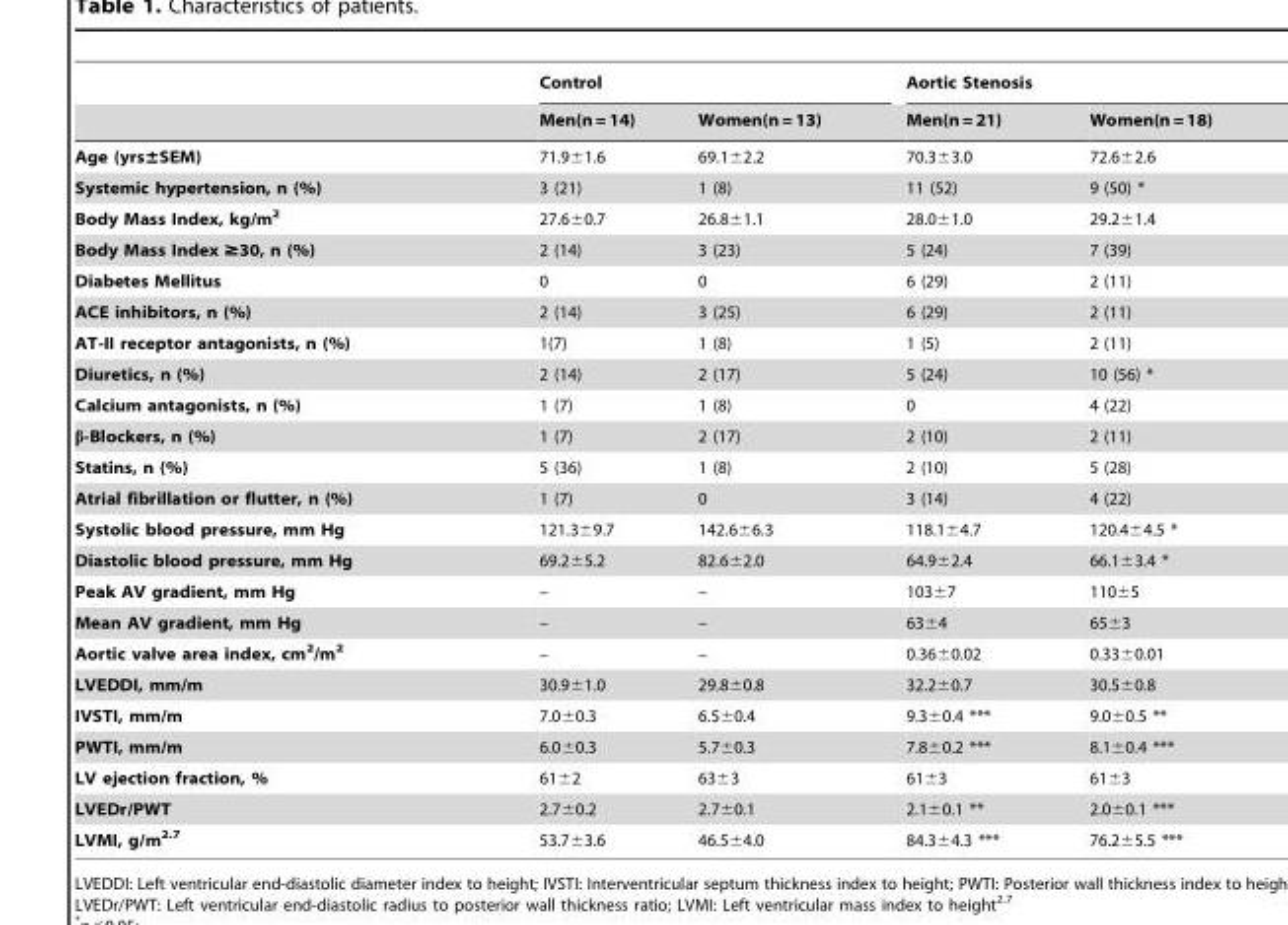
<table><thead><tr><td rowspan="2"></td><td colspan="2">Control</td><td colspan="2">Aortic Stenosis</td></tr><tr><td>Men(n = 14)</td><td>Women(n = 13)</td><td>Men(n = 21)</td><td>Women(n = 18)</td></tr></thead><tbody><tr><td>Age (yrs±SEM)</td><td>71.9±1.6</td><td>69.1±2.2</td><td>70.3±3.0</td><td>72.6±2.6</td></tr><tr><td>Systemic hypertension, n (%)</td><td>3 (21)</td><td>1 (8)</td><td>11 (52)</td><td>9 (50) *</td></tr><tr><td>Body Mass Index, kg/m<sup>2</sup></td><td>27.6±0.7</td><td>26.8±1.1</td><td>28.0±1.0</td><td>29.2±1.4</td></tr><tr><td>Body Mass Index ≥30, n (%)</td><td>2 (14)</td><td>3 (23)</td><td>5 (24)</td><td>7 (39)</td></tr><tr><td>Diabetes Mellitus</td><td>0</td><td>0</td><td>6 (29)</td><td>2 (11)</td></tr><tr><td>ACE inhibitors, n (%)</td><td>2 (14)</td><td>3 (25)</td><td>6 (29)</td><td>2 (11)</td></tr><tr><td>AT-II receptor antagonists, n (%)</td><td>1(7)</td><td>1 (8)</td><td>1 (5)</td><td>2 (11)</td></tr><tr><td>Diuretics, n (%)</td><td>2 (14)</td><td>2 (17)</td><td>5 (24)</td><td>10 (56) *</td></tr><tr><td>Calcium antagonists, n (%)</td><td>1 (7)</td><td>1 (8)</td><td>0</td><td>4 (22)</td></tr><tr><td>β-Blockers, n (%)</td><td>1 (7)</td><td>2 (17)</td><td>2 (10)</td><td>2 (11)</td></tr><tr><td>Statins, n (%)</td><td>5 (36)</td><td>1 (8)</td><td>2 (10)</td><td>5 (28)</td></tr><tr><td>Atrial fibrillation or flutter, n (%)</td><td>1 (7)</td><td>0</td><td>3 (14)</td><td>4 (22)</td></tr><tr><td>Systolic blood pressure, mm Hg</td><td>121.3±9.7</td><td>142.6±6.3</td><td>118.1±4.7</td><td>120.4±4.5 *</td></tr><tr><td>Diastolic blood pressure, mm Hg</td><td>69.2±5.2</td><td>82.6±2.0</td><td>64.9±2.4</td><td>66.1±3.4 *</td></tr><tr><td>Peak AV gradient, mm Hg</td><td>–</td><td>–</td><td>103±7</td><td>110±5</td></tr><tr><td>Mean AV gradient, mm Hg</td><td>–</td><td>–</td><td>63±4</td><td>65±3</td></tr><tr><td>Aortic valve area index, cm<sup>2</sup>/m<sup>2</sup></td><td>–</td><td>–</td><td>0.36±0.02</td><td>0.33±0.01</td></tr><tr><td>LVEDDI, mm/m</td><td>30.9±1.0</td><td>29.8±0.8</td><td>32.2±0.7</td><td>30.5±0.8</td></tr><tr><td>IVSTI, mm/m</td><td>7.0±0.3</td><td>6.5±0.4</td><td>9.3±0.4 ***</td><td>9.0±0.5 **</td></tr><tr><td>PWTI, mm/m</td><td>6.0±0.3</td><td>5.7±0.3</td><td>7.8±0.2 ***</td><td>8.1±0.4 ***</td></tr><tr><td>LV ejection fraction, %</td><td>61±2</td><td>63±3</td><td>61±3</td><td>61±3</td></tr><tr><td>LVEDr/PWT</td><td>2.7±0.2</td><td>2.7±0.1</td><td>2.1±0.1 **</td><td>2.0±0.1 ***</td></tr><tr><td>LVMI, g/m<sup>2.7</sup></td><td>53.7±3.6</td><td>46.5±4.0</td><td>84.3±4.3 ***</td><td>76.2±5.5 ***</td></tr></tbody></table>